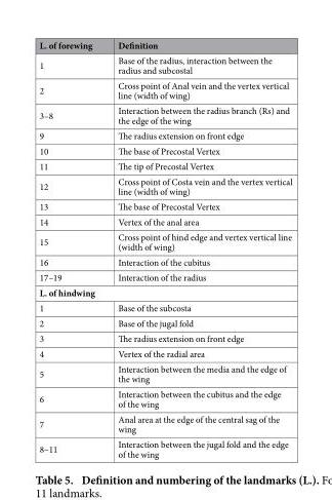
<table><thead><tr><td>L. of forewing</td><td>Definition</td></tr></thead><tbody><tr><td>1</td><td>Base of the radius, interaction between the radius and subcostal</td></tr><tr><td>2</td><td>Cross point of Anal vein and the vertex vertical line (width of wing)</td></tr><tr><td>3–8</td><td>Interaction between the radius branch (Rs) and the edge of the wing</td></tr><tr><td>9</td><td>The radius extension on front edge</td></tr><tr><td>10</td><td>The base of Precostal Vertex</td></tr><tr><td>11</td><td>The tip of Precostal Vertex</td></tr><tr><td>12</td><td>Cross point of Costa vein and the vertex vertical line (width of wing)</td></tr><tr><td>13</td><td>The base of Precostal Vertex</td></tr><tr><td>14</td><td>Vertex of the anal area</td></tr><tr><td>15</td><td>Cross point of hind edge and vertex vertical line (width of wing)</td></tr><tr><td>16</td><td>Interaction of the cubitus</td></tr><tr><td>17–19</td><td>Interaction of the radius</td></tr><tr><td colspan="2">L. of hindwing</td></tr><tr><td>1</td><td>Base of the subcosta</td></tr><tr><td>2</td><td>Base of the jugal fold</td></tr><tr><td>3</td><td>The radius extension on front edge</td></tr><tr><td>4</td><td>Vertex of the radial area</td></tr><tr><td>5</td><td>Interaction between the media and the edge of the wing</td></tr><tr><td>6</td><td>Interaction between the cubitus and the edge of the wing</td></tr><tr><td>7</td><td>Anal area at the edge of the central sag of the wing</td></tr><tr><td>8–11</td><td>Interaction between the jugal fold and the edge of the wing</td></tr></tbody></table>